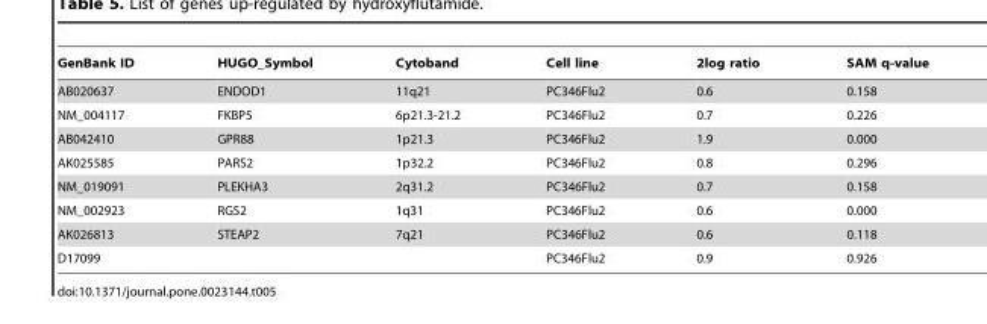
<table><thead><tr><td>GenBank ID</td><td>HUGO_Symbol</td><td>Cytoband</td><td>Cell line</td><td>2log ratio</td><td>SAM q-value</td></tr></thead><tbody><tr><td>AB020637</td><td>ENDOD1</td><td>11q21</td><td>PC346Flu2</td><td>0.6</td><td>0.158</td></tr><tr><td>NM_004117</td><td>FKBP5</td><td>6p21.3-21.2</td><td>PC346Flu2</td><td>0.7</td><td>0.226</td></tr><tr><td>AB042410</td><td>GPR88</td><td>1p21.3</td><td>PC346Flu2</td><td>1.9</td><td>0.000</td></tr><tr><td>AK025585</td><td>PARS2</td><td>1p32.2</td><td>PC346Flu2</td><td>0.8</td><td>0.296</td></tr><tr><td>NM_019091</td><td>PLEKHA3</td><td>2q31.2</td><td>PC346Flu2</td><td>0.7</td><td>0.158</td></tr><tr><td>NM_002923</td><td>RGS2</td><td>1q31</td><td>PC346Flu2</td><td>0.6</td><td>0.000</td></tr><tr><td>AK026813</td><td>STEAP2</td><td>7q21</td><td>PC346Flu2</td><td>0.6</td><td>0.118</td></tr><tr><td>D17099</td><td></td><td></td><td>PC346Flu2</td><td>0.9</td><td>0.926</td></tr></tbody></table>